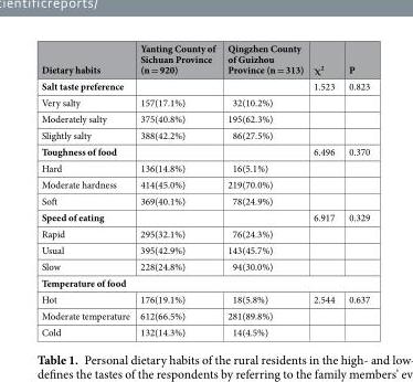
<table><thead><tr><td>Dietary habits</td><td>Yanting County of Sichuan Province (n = 920)</td><td>Qingzhen County of Guizhou Province (n = 313)</td><td>χ<sup>2</sup></td><td>P</td></tr></thead><tbody><tr><td>Salt taste preference</td><td></td><td></td><td>1.523</td><td>0.823</td></tr><tr><td>Very salty</td><td>157(17.1%)</td><td>32(10.2%)</td><td></td><td></td></tr><tr><td>Moderately salty</td><td>375(40.8%)</td><td>195(62.3%)</td><td></td><td></td></tr><tr><td>Slightly salty</td><td>388(42.2%)</td><td>86(27.5%)</td><td></td><td></td></tr><tr><td>Toughness of food</td><td></td><td></td><td>6.496</td><td>0.370</td></tr><tr><td>Hard</td><td>136(14.8%)</td><td>16(5.1%)</td><td></td><td></td></tr><tr><td>Moderate hardness</td><td>414(45.0%)</td><td>219(70.0%)</td><td></td><td></td></tr><tr><td>Soft</td><td>369(40.1%)</td><td>78(24.9%)</td><td></td><td></td></tr><tr><td>Speed of eating</td><td></td><td></td><td>6.917</td><td>0.329</td></tr><tr><td>Rapid</td><td>295(32.1%)</td><td>76(24.3%)</td><td></td><td></td></tr><tr><td>Usual</td><td>395(42.9%)</td><td>143(45.7%)</td><td></td><td></td></tr><tr><td>Slow</td><td>228(24.8%)</td><td>94(30.0%)</td><td></td><td></td></tr><tr><td colspan="5">Temperature of food</td></tr><tr><td>Hot</td><td>176(19.1%)</td><td>18(5.8%)</td><td>2.544</td><td>0.637</td></tr><tr><td>Moderate temperature</td><td>612(66.5%)</td><td>281(89.8%)</td><td></td><td></td></tr><tr><td>Cold</td><td>132(14.3%)</td><td>14(4.5%)</td><td></td><td></td></tr></tbody></table>